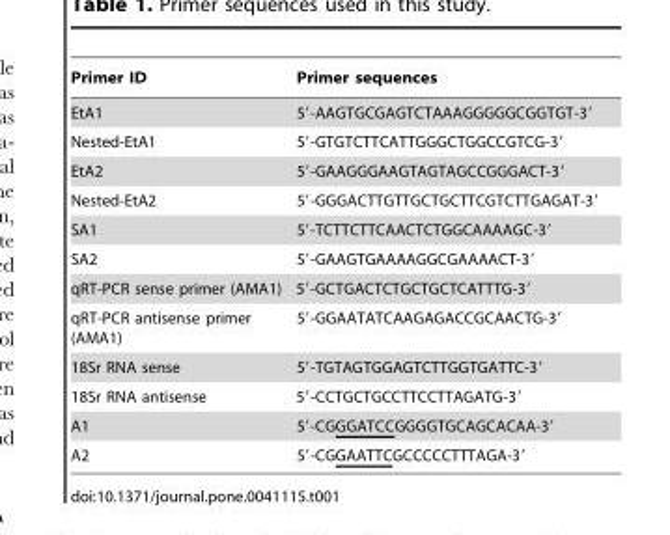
<table><thead><tr><td>Primer ID</td><td>Primer sequences</td></tr></thead><tbody><tr><td>EtA1</td><td>5′-AAGTGCGAGTCTAAAGGGGGCGGTGT-3′</td></tr><tr><td>Nested-EtA1</td><td>5′-GTGTCTTCATTGGGCTGGCCGTCG-3′</td></tr><tr><td>EtA2</td><td>5′-GAAGGGAAGTAGTAGCCGGGACT-3′</td></tr><tr><td>Nested-EtA2</td><td>5′-GGGACTTGTTGCTGCTTCGTCTTGAGAT-3′</td></tr><tr><td>SA1</td><td>5′-TCTTCTTCAACTCTGGCAAAAGC-3′</td></tr><tr><td>SA2</td><td>5′-GAAGTGAAAAGGCGAAAACT-3′</td></tr><tr><td>qRT-PCR sense primer (AMA1)</td><td>5′-GCTGACTCTGCTGCTCATTTG-3′</td></tr><tr><td>qRT-PCR antisense primer (AMA1)</td><td>5′-GGAATATCAAGAGACCGCAACTG-3′</td></tr><tr><td>18Sr RNA sense</td><td>5′-TGTAGTGGAGTCTTGGTGATTC-3′</td></tr><tr><td>18Sr RNA antisense</td><td>5′-CCTGCTGCCTTCCTTAGATG-3′</td></tr><tr><td>A1</td><td>5′-CGGGATCCGGGGTGCAGCACAA-3′</td></tr><tr><td>A2</td><td>5′-CGGAATTCGCCCCCTTTAGA-3′</td></tr></tbody></table>